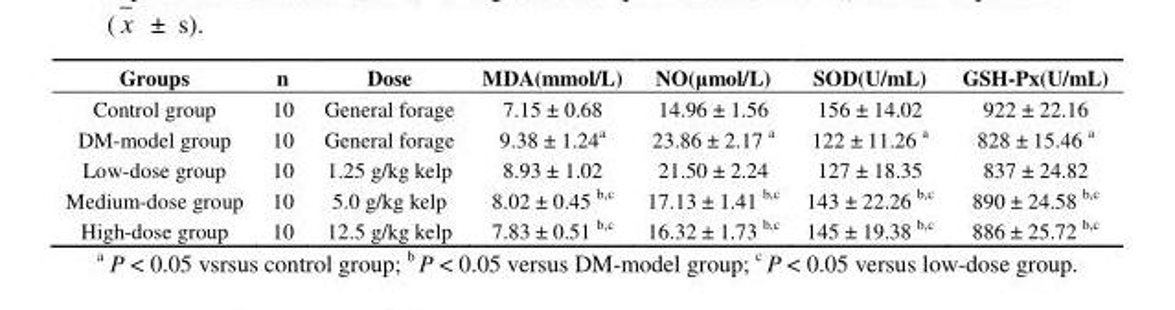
<table><thead><tr><td>Groups</td><td>n</td><td>Dose</td><td>MDA(mmol/L)</td><td>NO(µmol/L)</td><td>SOD(U/mL)</td><td>GSH-Px(U/mL)</td></tr></thead><tbody><tr><td>Control group</td><td>10</td><td>General forage</td><td>7.15 ± 0.68</td><td>14.96 ± 1.56</td><td>156 ± 14.02</td><td>922 ± 22.16</td></tr><tr><td>DM-model group</td><td>10</td><td>General forage</td><td>9.38 ± 1.24<sup>a</sup></td><td>23.86 ± 2.17 a</td><td>122 ± 11.26 a</td><td>828 ± 15.46 a</td></tr><tr><td>Low-dose group</td><td>10</td><td>1.25 g/kg kelp</td><td>8.93 ± 1.02</td><td>21.50 ± 2.24</td><td>127 ± 18.35</td><td>837 ± 24.82</td></tr><tr><td>Medium-dose group</td><td>10</td><td>5.0 g/kg kelp</td><td>8.02 ± 0.45 b,c</td><td>17.13 ± 1.41 b,c</td><td>143 ± 22.26 b,c</td><td>890 ± 24.58 b,c</td></tr><tr><td>High-dose group</td><td>10</td><td>12.5 g/kg kelp</td><td>7.83 ± 0.51 <sup>b</sup>,<sup>c</sup></td><td>16.32 ± 1.73 b,c</td><td>145 ± 19.38 b,c</td><td>886 ± 25.72 b,c</td></tr></tbody></table>